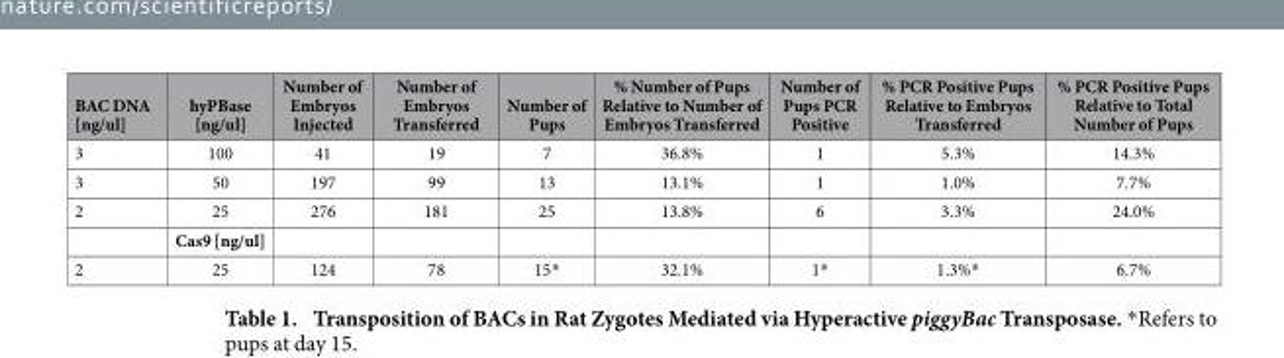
<table><thead><tr><td>BAC DNA [ng/ul]</td><td>hyPBase [ng/ul]</td><td>Number of Embryos Injected</td><td>Number of Embryos Transferred</td><td>Number of Pups</td><td>% Number of Pups Relative to Number of Embryos Transferred</td><td>Number of Pups PCR Positive</td><td>% PCR Positive Pups Relative to Embryos Transferred</td><td>% PCR Positive Pups Relative to Total Number of Pups</td></tr></thead><tbody><tr><td>3</td><td>100</td><td>41</td><td>19</td><td>7</td><td>36.8%</td><td>1</td><td>5.3%</td><td>14.3%</td></tr><tr><td>3</td><td>50</td><td>197</td><td>99</td><td>13</td><td>13.1%</td><td>1</td><td>1.0%</td><td>7.7%</td></tr><tr><td rowspan="2">2</td><td>25</td><td>276</td><td>181</td><td>25</td><td>13.8%</td><td>6</td><td>3.3%</td><td>24.0%</td></tr><tr><td>Cas9 [ng/ul]</td><td></td><td></td><td></td><td></td><td></td><td></td><td></td></tr><tr><td>2</td><td>25</td><td>124</td><td>78</td><td>15*</td><td>32.1%</td><td>1*</td><td>1.3%*</td><td>6.7%</td></tr></tbody></table>